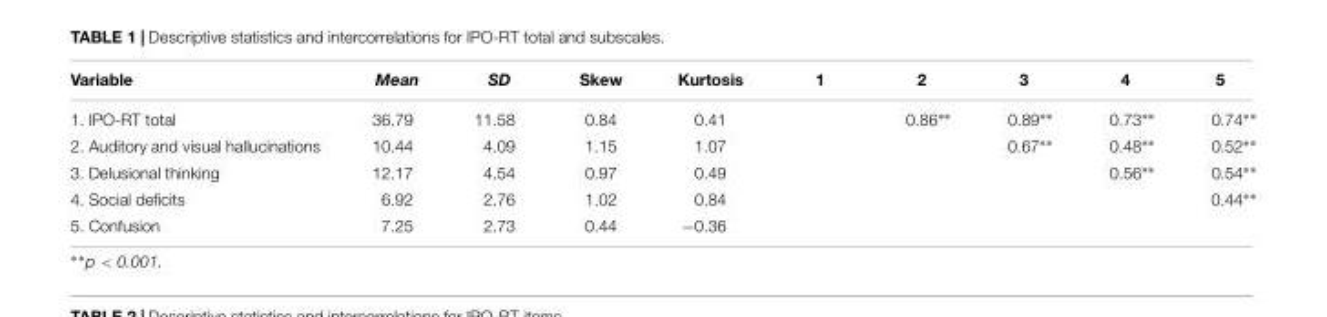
<table><thead><tr><td>Variable</td><td>Mean</td><td>SD</td><td>Skew</td><td>Kurtosis</td><td>1</td><td>2</td><td>3</td><td>4</td><td>5</td></tr></thead><tbody><tr><td>1. IPO-RT total</td><td>36.79</td><td>11.58</td><td>0.84</td><td>0.41</td><td></td><td>0.86∗∗</td><td>0.89∗∗</td><td>0.73∗∗</td><td>0.74∗∗</td></tr><tr><td>2. Auditory and visual hallucinations</td><td>10.44</td><td>4.09</td><td>1.15</td><td>1.07</td><td></td><td></td><td>0.67∗∗</td><td>0.48∗∗</td><td>0.52∗∗</td></tr><tr><td>3. Delusional thinking</td><td>12.17</td><td>4.54</td><td>0.97</td><td>0.49</td><td></td><td></td><td></td><td>0.56∗∗</td><td>0.54∗∗</td></tr><tr><td>4. Social deficits</td><td>6.92</td><td>2.76</td><td>1.02</td><td>0.84</td><td></td><td></td><td></td><td></td><td>0.44∗∗</td></tr><tr><td>5. Confusion</td><td>7.25</td><td>2.73</td><td>0.44</td><td>−0.36</td><td></td><td></td><td></td><td></td><td></td></tr></tbody></table>